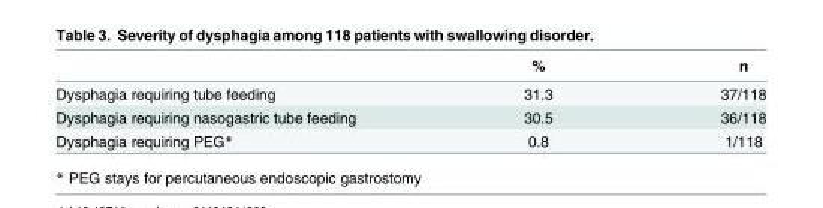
<table><thead><tr><td></td><td>%</td><td>n</td></tr></thead><tbody><tr><td>Dysphagia requiring tube feeding</td><td>31.3</td><td>37/118</td></tr><tr><td>Dysphagia requiring nasogastric tube feeding</td><td>30.5</td><td>36/118</td></tr><tr><td>Dysphagia requiring PEG*</td><td>0.8</td><td>1/118</td></tr></tbody></table>